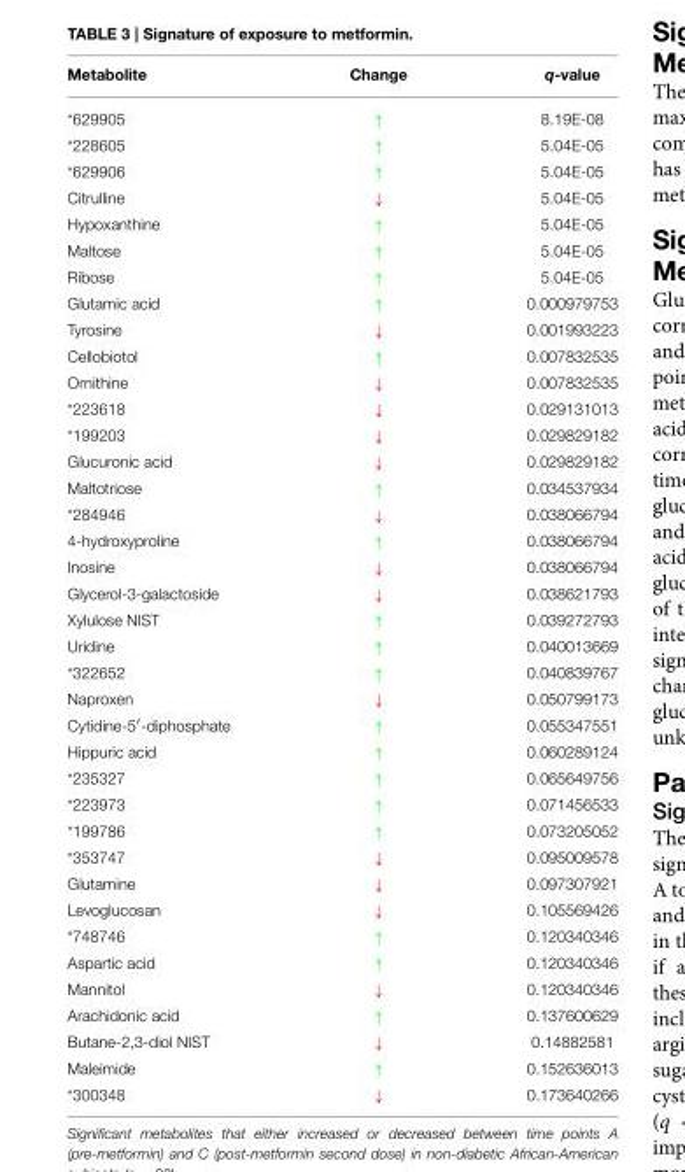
<table><thead><tr><td>Metabolite</td><td>Change</td><td>q-value</td></tr></thead><tbody><tr><td>*629905</td><td>↑</td><td>8.19E-08</td></tr><tr><td>*228605</td><td>↑</td><td>5.04E-05</td></tr><tr><td>*629906</td><td>↑</td><td>5.04E-05</td></tr><tr><td>Citrulline</td><td>↓</td><td>5.04E-05</td></tr><tr><td>Hypoxanthine</td><td>↑</td><td>5.04E-05</td></tr><tr><td>Maltose</td><td>↑</td><td>5.04E-05</td></tr><tr><td>Ribose</td><td>↑</td><td>5.04E-05</td></tr><tr><td>Glutamic acid</td><td>↑</td><td>0.000979753</td></tr><tr><td>Tyrosine</td><td>↓</td><td>0.001993223</td></tr><tr><td>Cellobiotol</td><td>↑</td><td>0.007832535</td></tr><tr><td>Ornithine</td><td>↓</td><td>0.007832535</td></tr><tr><td>*223618</td><td>↓</td><td>0.029131013</td></tr><tr><td>*199203</td><td>↓</td><td>0.029829182</td></tr><tr><td>Glucuronic acid</td><td>↓</td><td>0.029829182</td></tr><tr><td>Maltotriose</td><td>↑</td><td>0.034537934</td></tr><tr><td>*284946</td><td>↓</td><td>0.038066794</td></tr><tr><td>4-hydroxyproline</td><td>↑</td><td>0.038066794</td></tr><tr><td>Inosine</td><td>↓</td><td>0.038066794</td></tr><tr><td>Glycerol-3-galactoside</td><td>↓</td><td>0.038621793</td></tr><tr><td>Xylulose NIST</td><td>↑</td><td>0.039272793</td></tr><tr><td>Uridine</td><td>↑</td><td>0.040013669</td></tr><tr><td>*322652</td><td>↑</td><td>0.040839767</td></tr><tr><td>Naproxen</td><td>↓</td><td>0.050799173</td></tr><tr><td>Cytidine-5′-diphosphate</td><td>↑</td><td>0.055347551</td></tr><tr><td>Hippuric acid</td><td>↑</td><td>0.060289124</td></tr><tr><td>*235327</td><td>↑</td><td>0.065649756</td></tr><tr><td>*223973</td><td>↑</td><td>0.071456533</td></tr><tr><td>*199786</td><td>↑</td><td>0.073205052</td></tr><tr><td>*353747</td><td>↓</td><td>0.095009578</td></tr><tr><td>Glutamine</td><td>↓</td><td>0.097307921</td></tr><tr><td>Levoglucosan</td><td>↓</td><td>0.105569426</td></tr><tr><td>*748746</td><td>↑</td><td>0.120340346</td></tr><tr><td>Aspartic acid</td><td>↑</td><td>0.120340346</td></tr><tr><td>Mannitol</td><td>↓</td><td>0.120340346</td></tr><tr><td>Arachidonic acid</td><td>↑</td><td>0.137600629</td></tr><tr><td>Butane-2,3-diol NIST</td><td>↓</td><td>0.14882581</td></tr><tr><td>Maleimide</td><td>↑</td><td>0.152636013</td></tr><tr><td>*300348</td><td>↓</td><td>0.173640266</td></tr></tbody></table>